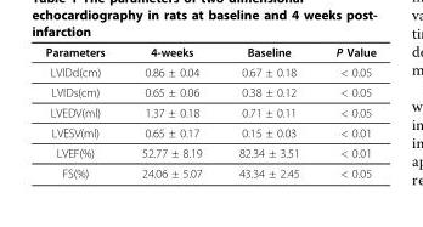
<table><thead><tr><td>Parameters</td><td>4-weeks</td><td>Baseline</td><td>P Value</td></tr></thead><tbody><tr><td>LVIDd(cm)</td><td>0.86 ± 0.04</td><td>0.67 ± 0.18</td><td>&lt; 0.05</td></tr><tr><td>LVIDs(cm)</td><td>0.65 ± 0.06</td><td>0.38 ± 0.12</td><td>&lt; 0.05</td></tr><tr><td>LVEDV(ml)</td><td>1.37 ± 0.18</td><td>0.71 ± 0.11</td><td>&lt; 0.05</td></tr><tr><td>LVESV(ml)</td><td>0.65 ± 0.17</td><td>0.15 ± 0.03</td><td>&lt; 0.01</td></tr><tr><td>LVEF(%)</td><td>52.77 ± 8.19</td><td>82.34 ± 3.51</td><td>&lt; 0.01</td></tr><tr><td>FS(%)</td><td>24.06 ± 5.07</td><td>43.34 ± 2.45</td><td>&lt; 0.05</td></tr></tbody></table>